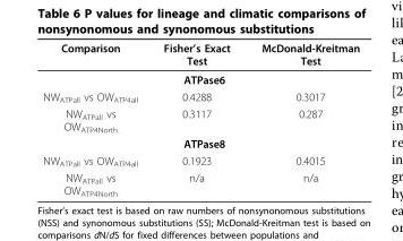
<table><thead><tr><td>Comparison</td><td>Fisher’s Exact Test</td><td>McDonald-Kreitman Test</td></tr></thead><tbody><tr><td colspan="3">ATPase6</td></tr><tr><td>NW<sub>ATPall</sub> vs OW<sub>ATP4all</sub></td><td>0.4288</td><td>0.3017</td></tr><tr><td>NW<sub>ATPall</sub> vs OW<sub>ATP4North</sub></td><td>0.3117</td><td>0.287</td></tr><tr><td colspan="3">ATPase8</td></tr><tr><td>NW<sub>ATPall</sub> vs OW<sub>ATP4all</sub></td><td>0.1923</td><td>0.4015</td></tr><tr><td>NW<sub>ATPall</sub> vs OW<sub>ATP4North</sub></td><td>n/a</td><td>n/a</td></tr></tbody></table>